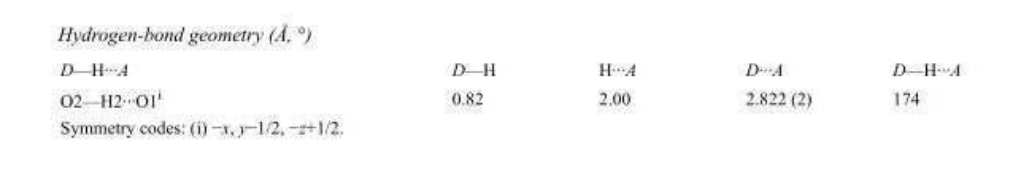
<table><tbody><tr><td>D—H···A</td><td>D—H</td><td>H···A</td><td>D···A</td><td>D—H···A</td></tr><tr><td>O2—H2···O1<sup>i</sup></td><td>0.82</td><td>2.00</td><td>2.822 (2)</td><td>174</td></tr></tbody></table>